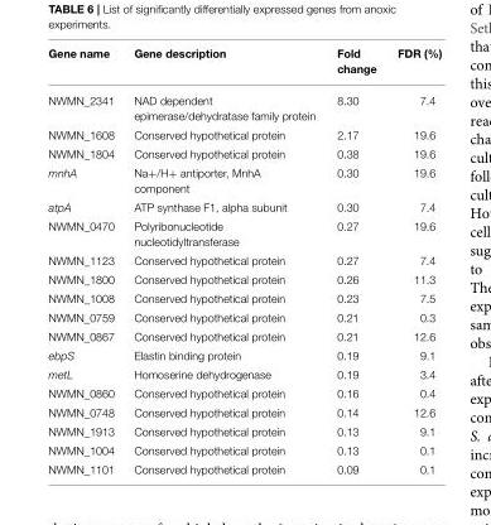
<table><thead><tr><td>Gene name</td><td>Gene description</td><td>Fold change</td><td>FDR (%)</td></tr></thead><tbody><tr><td>NWMN_2341</td><td>NAD dependent epimerase/dehydratase family protein</td><td>8.30</td><td>7.4</td></tr><tr><td>NWMN_1608</td><td>Conserved hypothetical protein</td><td>2.17</td><td>19.6</td></tr><tr><td>NWMN_1804</td><td>Conserved hypothetical protein</td><td>0.38</td><td>19.6</td></tr><tr><td>mnhA</td><td>Na+/H+ antiporter, MnhA component</td><td>0.30</td><td>19.6</td></tr><tr><td>atpA</td><td>ATP synthase F1, alpha subunit</td><td>0.30</td><td>7.4</td></tr><tr><td>NWMN_0470</td><td>Polyribonucleotide nucleotidyltransferase</td><td>0.27</td><td>19.6</td></tr><tr><td>NWMN_1123</td><td>Conserved hypothetical protein</td><td>0.27</td><td>7.4</td></tr><tr><td>NWMN_1800</td><td>Conserved hypothetical protein</td><td>0.26</td><td>11.3</td></tr><tr><td>NWMN_1008</td><td>Conserved hypothetical protein</td><td>0.23</td><td>7.5</td></tr><tr><td>NWMN_0759</td><td>Conserved hypothetical protein</td><td>0.21</td><td>0.3</td></tr><tr><td>NWMN_0867</td><td>Conserved hypothetical protein</td><td>0.21</td><td>12.6</td></tr><tr><td>ebpS</td><td>Elastin binding protein</td><td>0.19</td><td>9.1</td></tr><tr><td>metL</td><td>Homoserine dehydrogenase</td><td>0.19</td><td>3.4</td></tr><tr><td>NWMN_0860</td><td>Conserved hypothetical protein</td><td>0.16</td><td>0.4</td></tr><tr><td>NWMN_0748</td><td>Conserved hypothetical protein</td><td>0.14</td><td>12.6</td></tr><tr><td>NWMN_1913</td><td>Conserved hypothetical protein</td><td>0.13</td><td>9.1</td></tr><tr><td>NWMN_1004</td><td>Conserved hypothetical protein</td><td>0.13</td><td>0.1</td></tr><tr><td>NWMN_1101</td><td>Conserved hypothetical protein</td><td>0.09</td><td>0.1</td></tr></tbody></table>